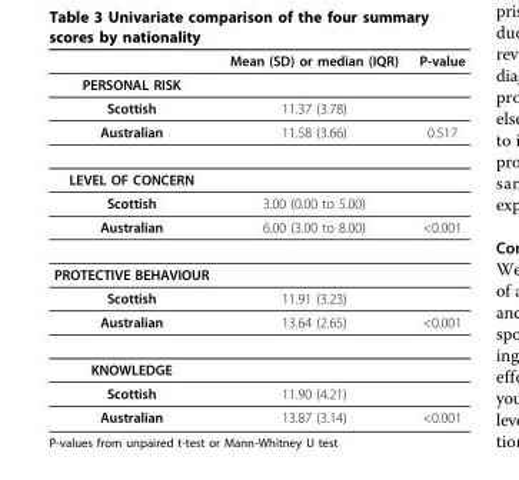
<table><thead><tr><td></td><td>Mean (SD) or median (IQR)</td><td>P-value</td></tr></thead><tbody><tr><td colspan="3">PERSONAL RISK</td></tr><tr><td>Scottish</td><td>11.37 (3.78)</td><td></td></tr><tr><td>Australian</td><td>11.58 (3.66)</td><td>0.517</td></tr><tr><td colspan="3">LEVEL OF CONCERN</td></tr><tr><td>Scottish</td><td>3.00 (0.00 to 5.00)</td><td></td></tr><tr><td>Australian</td><td>6.00 (3.00 to 8.00)</td><td>&lt;0.001</td></tr><tr><td colspan="3">PROTECTIVE BEHAVIOUR</td></tr><tr><td>Scottish</td><td>11.91 (3.23)</td><td></td></tr><tr><td>Australian</td><td>13.64 (2.65)</td><td>&lt;0.001</td></tr><tr><td colspan="3">KNOWLEDGE</td></tr><tr><td>Scottish</td><td>11.90 (4.21)</td><td></td></tr><tr><td>Australian</td><td>13.87 (3.14)</td><td>&lt;0.001</td></tr></tbody></table>